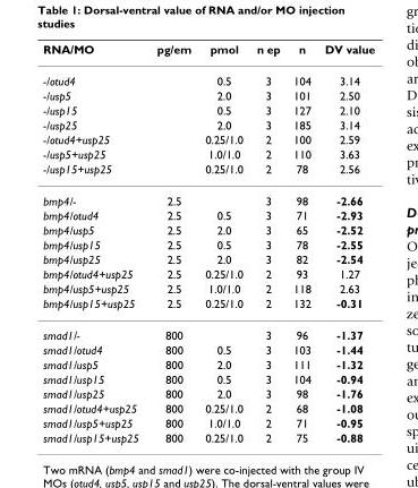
<table><thead><tr><td>RNA/MO</td><td>pg/em</td><td>pmol</td><td>n ep</td><td>n</td><td>DV value</td></tr></thead><tbody><tr><td>-/otud4</td><td></td><td>0.5</td><td>3</td><td>104</td><td>3.14</td></tr><tr><td>-/usp5</td><td></td><td>2.0</td><td>3</td><td>101</td><td>2.50</td></tr><tr><td>-/usp15</td><td></td><td>0.5</td><td>3</td><td>127</td><td>2.10</td></tr><tr><td>-/usp25</td><td></td><td>2.0</td><td>3</td><td>185</td><td>3.14</td></tr><tr><td>-/otud4+usp25</td><td></td><td>0.25/1.0</td><td>2</td><td>100</td><td>2.59</td></tr><tr><td>-/usp5+usp25</td><td></td><td>1.0/1.0</td><td>2</td><td>110</td><td>3.63</td></tr><tr><td>-/usp15+usp25</td><td></td><td>0.25/1.0</td><td>2</td><td>78</td><td>2.56</td></tr><tr><td>bmp4/-</td><td>2.5</td><td></td><td>3</td><td>98</td><td>-2.66</td></tr><tr><td>bmp4/otud4</td><td>2.5</td><td>0.5</td><td>3</td><td>71</td><td>-2.93</td></tr><tr><td>bmp4/usp5</td><td>2.5</td><td>2.0</td><td>3</td><td>65</td><td>-2.52</td></tr><tr><td>bmp4/usp15</td><td>2.5</td><td>0.5</td><td>3</td><td>78</td><td>-2.55</td></tr><tr><td>bmp4/usp25</td><td>2.5</td><td>2.0</td><td>3</td><td>82</td><td>-2.54</td></tr><tr><td>bmp4/otud4+usp25</td><td>2.5</td><td>0.25/1.0</td><td>2</td><td>93</td><td>1.27</td></tr><tr><td>bmp4/usp5+usp25</td><td>2.5</td><td>1.0/1.0</td><td>2</td><td>118</td><td>2.63</td></tr><tr><td>bmp4/usp15+usp25</td><td>2.5</td><td>0.25/1.0</td><td>2</td><td>132</td><td>-0.31</td></tr><tr><td>smad1/-</td><td>800</td><td></td><td>3</td><td>96</td><td>-1.37</td></tr><tr><td>smad1/otud4</td><td>800</td><td>0.5</td><td>3</td><td>103</td><td>-1.44</td></tr><tr><td>smad1/usp5</td><td>800</td><td>2.0</td><td>3</td><td>111</td><td>-1.32</td></tr><tr><td>smad1/usp15</td><td>800</td><td>0.5</td><td>3</td><td>104</td><td>-0.94</td></tr><tr><td>smad1/usp25</td><td>800</td><td>2.0</td><td>3</td><td>98</td><td>-1.76</td></tr><tr><td>smad1/otud4+usp25</td><td>800</td><td>0.25/1.0</td><td>2</td><td>68</td><td>-1.08</td></tr><tr><td>smad1/usp5+usp25</td><td>800</td><td>1.0/1.0</td><td>2</td><td>71</td><td>-0.95</td></tr><tr><td>smad1/usp15+usp25</td><td>800</td><td>0.25/1.0</td><td>2</td><td>75</td><td>-0.88</td></tr></tbody></table>